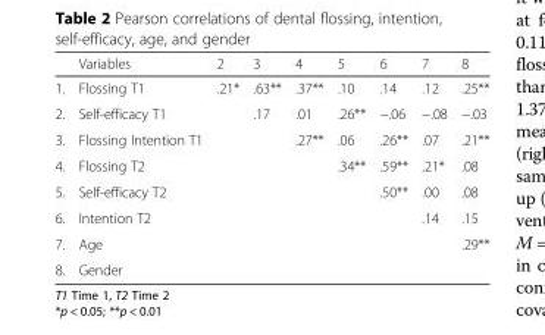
<table><thead><tr><td></td><td>Variables</td><td>2</td><td>3</td><td>4</td><td>5</td><td>6</td><td>7</td><td>8</td></tr></thead><tbody><tr><td>1.</td><td>Flossing T1</td><td>.21*</td><td>.63**</td><td>.37**</td><td>.10</td><td>.14</td><td>.12</td><td>.25**</td></tr><tr><td>2.</td><td>Self-efficacy T1</td><td></td><td>.17</td><td>.01</td><td>.26**</td><td>−.06</td><td>−.08</td><td>−.03</td></tr><tr><td>3.</td><td>Flossing Intention T1</td><td></td><td></td><td>.27**</td><td>.06</td><td>.26**</td><td>.07</td><td>.21**</td></tr><tr><td>4.</td><td>Flossing T2</td><td></td><td></td><td></td><td>.34**</td><td>.59**</td><td>.21*</td><td>.08</td></tr><tr><td>5.</td><td>Self-efficacy T2</td><td></td><td></td><td></td><td></td><td>.50**</td><td>.00</td><td>.08</td></tr><tr><td>6.</td><td>Intention T2</td><td></td><td></td><td></td><td></td><td></td><td>.14</td><td>.15</td></tr><tr><td>7.</td><td>Age</td><td></td><td></td><td></td><td></td><td></td><td></td><td>.29**</td></tr><tr><td>8.</td><td>Gender</td><td></td><td></td><td></td><td></td><td></td><td></td><td></td></tr></tbody></table>